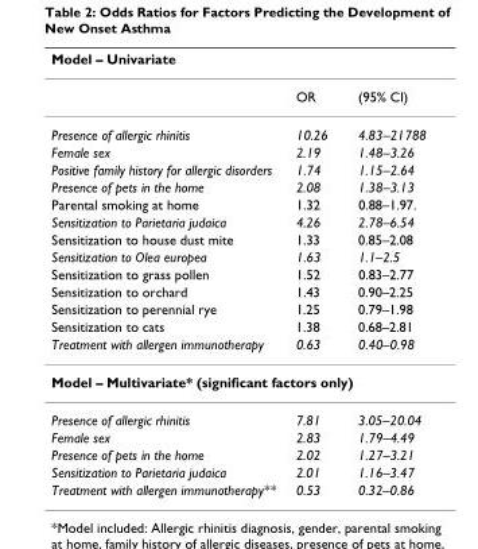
<table><thead><tr><td colspan="3">Model – Univariate</td></tr><tr><td></td><td>OR</td><td>(95% CI)</td></tr></thead><tbody><tr><td>Presence of allergic rhinitis</td><td>10.26</td><td>4.83–21788</td></tr><tr><td>Female sex</td><td>2.19</td><td>1.48–3.26</td></tr><tr><td>Positive family history for allergic disorders</td><td>1.74</td><td>1.15–2.64</td></tr><tr><td>Presence of pets in the home</td><td>2.08</td><td>1.38–3.13</td></tr><tr><td>Parental smoking at home</td><td>1.32</td><td>0.88–1.97.</td></tr><tr><td>Sensitization to Parietaria judaica</td><td>4.26</td><td>2.78–6.54</td></tr><tr><td>Sensitization to house dust mite</td><td>1.33</td><td>0.85–2.08</td></tr><tr><td>Sensitization to Olea europea</td><td>1.63</td><td>1.1–2.5</td></tr><tr><td>Sensitization to grass pollen</td><td>1.52</td><td>0.83–2.77</td></tr><tr><td>Sensitization to orchard</td><td>1.43</td><td>0.90–2.25</td></tr><tr><td>Sensitization to perennial rye</td><td>1.25</td><td>0.79–1.98</td></tr><tr><td>Sensitization to cats</td><td>1.38</td><td>0.68–2.81</td></tr><tr><td>Treatment with allergen immunotherapy</td><td>0.63</td><td>0.40–0.98</td></tr><tr><td colspan="3">Model – Multivariate* (significant factors only)</td></tr><tr><td>Presence of allergic rhinitis</td><td>7.81</td><td>3.05–20.04</td></tr><tr><td>Female sex</td><td>2.83</td><td>1.79–4.49</td></tr><tr><td>Presence of pets in the home</td><td>2.02</td><td>1.27–3.21</td></tr><tr><td>Sensitization to Parietaria judaica</td><td>2.01</td><td>1.16–3.47</td></tr><tr><td>Treatment with allergen immunotherapy**</td><td>0.53</td><td>0.32–0.86</td></tr></tbody></table>